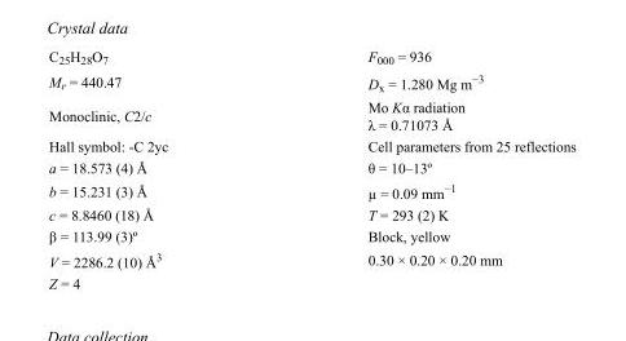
<table><tbody><tr><td>C<sub>25</sub>H<sub>28</sub>O<sub>7</sub></td><td>F000 = 936</td></tr><tr><td>M<sub>r</sub> = 440.47</td><td>D<sub>x</sub> = 1.280 Mg m<sup>−3</sup></td></tr><tr><td>Monoclinic, C2/c</td><td>Mo Kα radiation λ = 0.71073 Å</td></tr><tr><td>Hall symbol: -C 2yc</td><td>Cell parameters from 25 reflections</td></tr><tr><td>a = 18.573 (4) Å</td><td>θ = 10–13º</td></tr><tr><td>b = 15.231 (3) Å</td><td>µ = 0.09 mm<sup>−1</sup></td></tr><tr><td>c = 8.8460 (18) Å</td><td>T = 293 (2) K</td></tr><tr><td>β = 113.99 (3)º</td><td>Block, yellow</td></tr><tr><td>V = 2286.2 (10) Å<sup>3</sup></td><td>0.30 × 0.20 × 0.20 mm</td></tr><tr><td>Z = 4</td><td></td></tr></tbody></table>